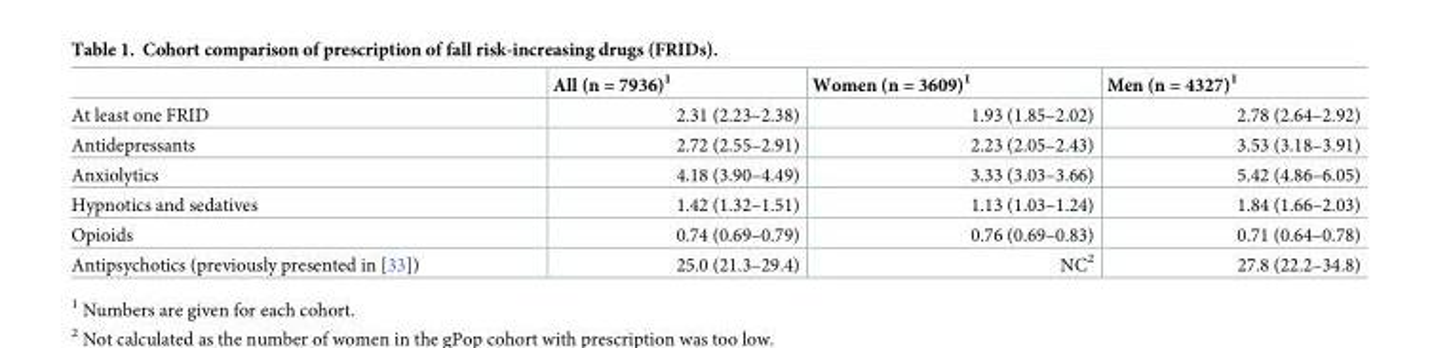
<table><thead><tr><td></td><td>All (n = 7936)<sup>1</sup></td><td>Women (n = 3609)<sup>1</sup></td><td>Men (n = 4327)<sup>1</sup></td></tr></thead><tbody><tr><td>At least one FRID</td><td>2.31 (2.23–2.38)</td><td>1.93 (1.85–2.02)</td><td>2.78 (2.64–2.92)</td></tr><tr><td>Antidepressants</td><td>2.72 (2.55–2.91)</td><td>2.23 (2.05–2.43)</td><td>3.53 (3.18–3.91)</td></tr><tr><td>Anxiolytics</td><td>4.18 (3.90–4.49)</td><td>3.33 (3.03–3.66)</td><td>5.42 (4.86–6.05)</td></tr><tr><td>Hypnotics and sedatives</td><td>1.42 (1.32–1.51)</td><td>1.13 (1.03–1.24)</td><td>1.84 (1.66–2.03)</td></tr><tr><td>Opioids</td><td>0.74 (0.69–0.79)</td><td>0.76 (0.69–0.83)</td><td>0.71 (0.64–0.78)</td></tr><tr><td>Antipsychotics (previously presented in [33])</td><td>25.0 (21.3–29.4)</td><td>NC<sup>2</sup></td><td>27.8 (22.2–34.8)</td></tr></tbody></table>